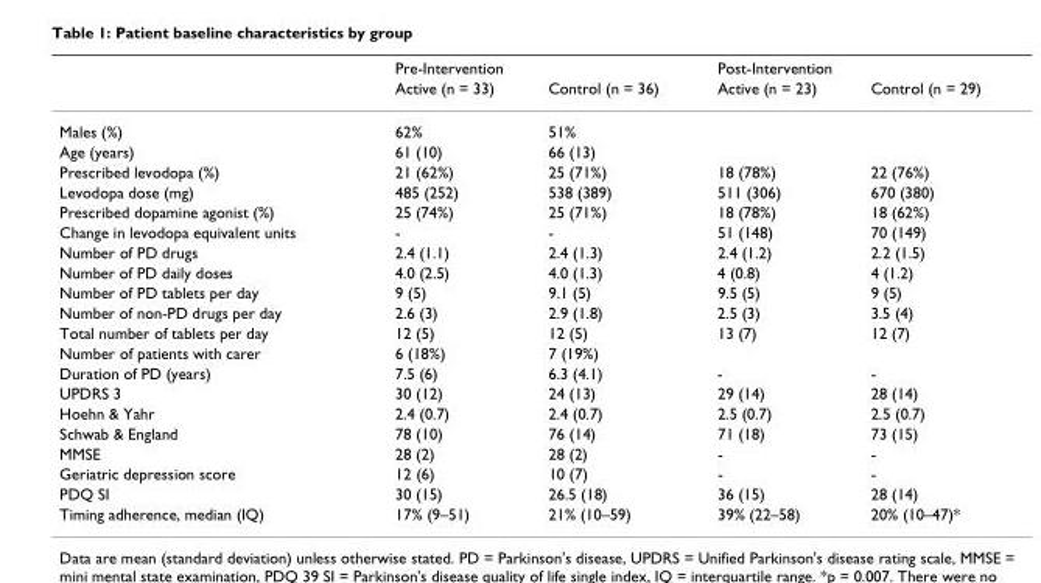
<table><thead><tr><td rowspan="2"></td><td colspan="2">Pre-Intervention</td><td colspan="2">Post-Intervention</td></tr><tr><td>Active (n = 33)</td><td>Control (n = 36)</td><td>Active (n = 23)</td><td>Control (n = 29)</td></tr></thead><tbody><tr><td>Males (%)</td><td>62%</td><td>51%</td><td></td><td></td></tr><tr><td>Age (years)</td><td>61 (10)</td><td>66 (13)</td><td></td><td></td></tr><tr><td>Prescribed levodopa (%)</td><td>21 (62%)</td><td>25 (71%)</td><td>18 (78%)</td><td>22 (76%)</td></tr><tr><td>Levodopa dose (mg)</td><td>485 (252)</td><td>538 (389)</td><td>511 (306)</td><td>670 (380)</td></tr><tr><td>Prescribed dopamine agonist (%)</td><td>25 (74%)</td><td>25 (71%)</td><td>18 (78%)</td><td>18 (62%)</td></tr><tr><td>Change in levodopa equivalent units</td><td>-</td><td>-</td><td>51 (148)</td><td>70 (149)</td></tr><tr><td>Number of PD drugs</td><td>2.4 (1.1)</td><td>2.4 (1.3)</td><td>2.4 (1.2)</td><td>2.2 (1.5)</td></tr><tr><td>Number of PD daily doses</td><td>4.0 (2.5)</td><td>4.0 (1.3)</td><td>4 (0.8)</td><td>4 (1.2)</td></tr><tr><td>Number of PD tablets per day</td><td>9 (5)</td><td>9.1 (5)</td><td>9.5 (5)</td><td>9 (5)</td></tr><tr><td>Number of non-PD drugs per day</td><td>2.6 (3)</td><td>2.9 (1.8)</td><td>2.5 (3)</td><td>3.5 (4)</td></tr><tr><td>Total number of tablets per day</td><td>12 (5)</td><td>12 (5)</td><td>13 (7)</td><td>12 (7)</td></tr><tr><td>Number of patients with carer</td><td>6 (18%)</td><td>7 (19%)</td><td></td><td></td></tr><tr><td>Duration of PD (years)</td><td>7.5 (6)</td><td>6.3 (4.1)</td><td>-</td><td>-</td></tr><tr><td>UPDRS 3</td><td>30 (12)</td><td>24 (13)</td><td>29 (14)</td><td>28 (14)</td></tr><tr><td>Hoehn &amp; Yahr</td><td>2.4 (0.7)</td><td>2.4 (0.7)</td><td>2.5 (0.7)</td><td>2.5 (0.7)</td></tr><tr><td>Schwab &amp; England</td><td>78 (10)</td><td>76 (14)</td><td>71 (18)</td><td>73 (15)</td></tr><tr><td>MMSE</td><td>28 (2)</td><td>28 (2)</td><td>-</td><td>-</td></tr><tr><td>Geriatric depression score</td><td>12 (6)</td><td>10 (7)</td><td>-</td><td>-</td></tr><tr><td>PDQ SI</td><td>30 (15)</td><td>26.5 (18)</td><td>36 (15)</td><td>28 (14)</td></tr><tr><td>Timing adherence, median (IQ)</td><td>17% (9–51)</td><td>21% (10–59)</td><td>39% (22–58)</td><td>20% (10–47)*</td></tr></tbody></table>